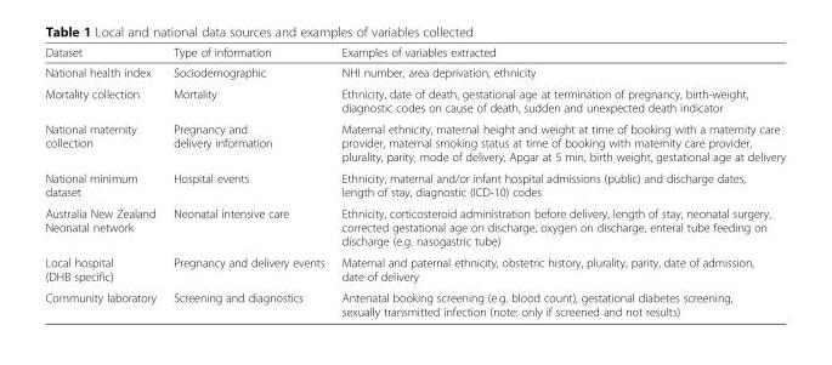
<table><thead><tr><td>Dataset</td><td>Type of information</td><td>Examples of variables extracted</td></tr></thead><tbody><tr><td>National health index</td><td>Sociodemographic</td><td>NHI number, area deprivation, ethnicity</td></tr><tr><td>Mortality collection</td><td>Mortality</td><td>Ethnicity, date of death, gestational age at termination of pregnancy, birth-weight, diagnostic codes on cause of death, sudden and unexpected death indicator</td></tr><tr><td>National maternity collection</td><td>Pregnancy and delivery information</td><td>Maternal ethnicity, maternal height and weight at time of booking with a maternity care provider, maternal smoking status at time of booking with maternity care provider, plurality, parity, mode of delivery, Apgar at 5 min, birth weight, gestational age at delivery</td></tr><tr><td>National minimum dataset</td><td>Hospital events</td><td>Ethnicity, maternal and/or infant hospital admissions (public) and discharge dates, length of stay, diagnostic (ICD-10) codes</td></tr><tr><td>Australia New Zealand Neonatal network</td><td>Neonatal intensive care</td><td>Ethnicity, corticosteroid administration before delivery, length of stay, neonatal surgery, corrected gestational age on discharge, oxygen on discharge, enteral tube feeding on discharge (e.g. nasogastric tube)</td></tr><tr><td>Local hospital (DHB specific)</td><td>Pregnancy and delivery events</td><td>Maternal and paternal ethnicity, obstetric history, plurality, parity, date of admission, date of delivery</td></tr><tr><td>Community laboratory</td><td>Screening and diagnostics</td><td>Antenatal booking screening (e.g. blood count), gestational diabetes screening, sexually transmitted infection (note: only if screened and not results)</td></tr></tbody></table>